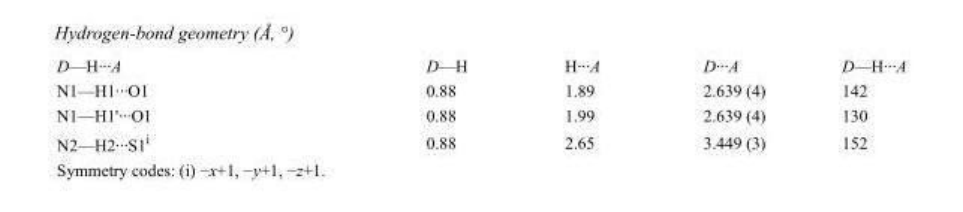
<table><tbody><tr><td>D—H···A</td><td>D—H</td><td>H···A</td><td>D···A</td><td>D—H···A</td></tr><tr><td>N1—H1···O1</td><td>0.88</td><td>1.89</td><td>2.639 (4)</td><td>142</td></tr><tr><td>N1—H1&#x27;···O1</td><td>0.88</td><td>1.99</td><td>2.639 (4)</td><td>130</td></tr><tr><td>N2—H2···S1<sup>i</sup></td><td>0.88</td><td>2.65</td><td>3.449 (3)</td><td>152</td></tr></tbody></table>